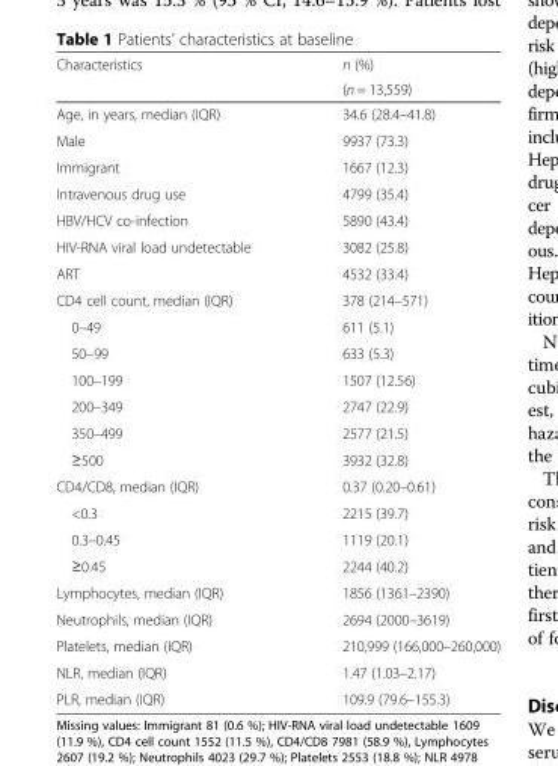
<table><thead><tr><td rowspan="2">Characteristics</td><td rowspan="2">n (%) (n = 13,559)</td></tr><tr></tr></thead><tbody><tr><td>Age, in years, median (IQR)</td><td>34.6 (28.4–41.8)</td></tr><tr><td>Male</td><td>9937 (73.3)</td></tr><tr><td>Immigrant</td><td>1667 (12.3)</td></tr><tr><td>Intravenous drug use</td><td>4799 (35.4)</td></tr><tr><td>HBV/HCV co-infection</td><td>5890 (43.4)</td></tr><tr><td>HIV-RNA viral load undetectable</td><td>3082 (25.8)</td></tr><tr><td>ART</td><td>4532 (33.4)</td></tr><tr><td>CD4 cell count, median (IQR)</td><td>378 (214–571)</td></tr><tr><td>0–49</td><td>611 (5.1)</td></tr><tr><td>50–99</td><td>633 (5.3)</td></tr><tr><td>100–199</td><td>1507 (12.56)</td></tr><tr><td>200–349</td><td>2747 (22.9)</td></tr><tr><td>350–499</td><td>2577 (21.5)</td></tr><tr><td>≥500</td><td>3932 (32.8)</td></tr><tr><td>CD4/CD8, median (IQR)</td><td>0.37 (0.20–0.61)</td></tr><tr><td>&lt;0.3</td><td>2215 (39.7)</td></tr><tr><td>0.3–0.45</td><td>1119 (20.1)</td></tr><tr><td>≥0.45</td><td>2244 (40.2)</td></tr><tr><td>Lymphocytes, median (IQR)</td><td>1856 (1361–2390)</td></tr><tr><td>Neutrophils, median (IQR)</td><td>2694 (2000–3619)</td></tr><tr><td>Platelets, median (IQR)</td><td>210,999 (166,000–260,000)</td></tr><tr><td>NLR, median (IQR)</td><td>1.47 (1.03–2.17)</td></tr><tr><td>PLR, median (IQR)</td><td>109.9 (79.6–155.3)</td></tr></tbody></table>